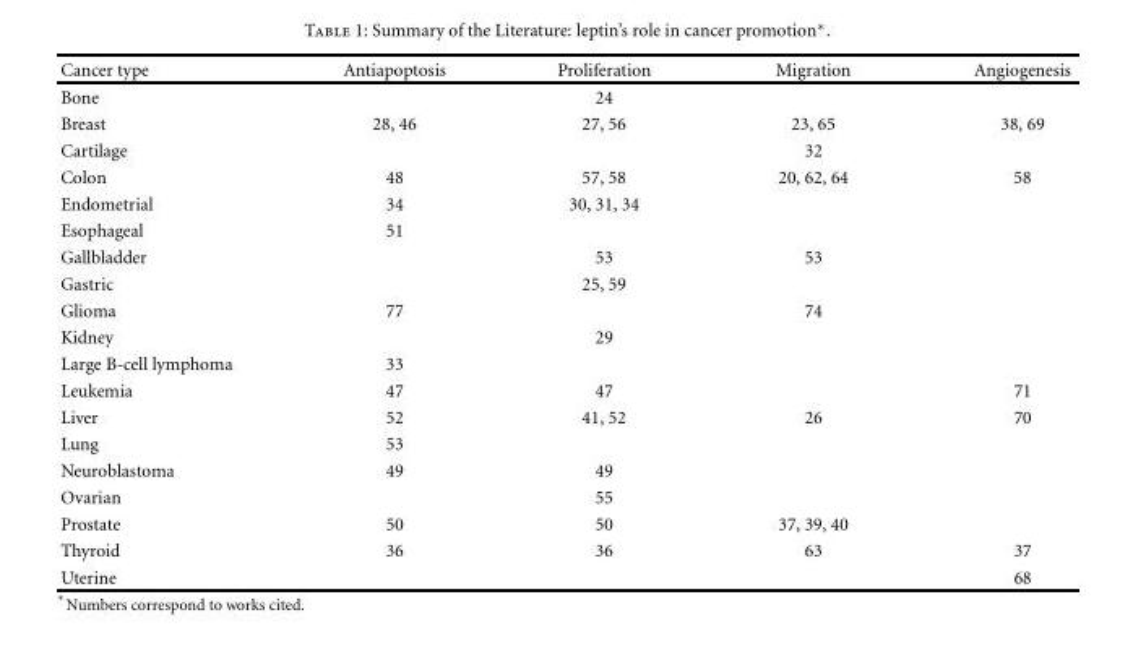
<table><thead><tr><td>Cancer type</td><td>Antiapoptosis</td><td>Proliferation</td><td>Migration</td><td>Angiogenesis</td></tr></thead><tbody><tr><td>Bone</td><td></td><td>24</td><td></td><td></td></tr><tr><td>Breast</td><td>28, 46</td><td>27, 56</td><td>23, 65</td><td>38, 69</td></tr><tr><td>Cartilage</td><td></td><td></td><td>32</td><td></td></tr><tr><td>Colon</td><td>48</td><td>57, 58</td><td>20, 62, 64</td><td>58</td></tr><tr><td>Endometrial</td><td>34</td><td>30, 31, 34</td><td></td><td></td></tr><tr><td>Esophageal</td><td>51</td><td></td><td></td><td></td></tr><tr><td>Gallbladder</td><td></td><td>53</td><td>53</td><td></td></tr><tr><td>Gastric</td><td></td><td>25, 59</td><td></td><td></td></tr><tr><td>Glioma</td><td>77</td><td></td><td>74</td><td></td></tr><tr><td>Kidney</td><td></td><td>29</td><td></td><td></td></tr><tr><td>Large B-cell lymphoma</td><td>33</td><td></td><td></td><td></td></tr><tr><td>Leukemia</td><td>47</td><td>47</td><td></td><td>71</td></tr><tr><td>Liver</td><td>52</td><td>41, 52</td><td>26</td><td>70</td></tr><tr><td>Lung</td><td>53</td><td></td><td></td><td></td></tr><tr><td>Neuroblastoma</td><td>49</td><td>49</td><td></td><td></td></tr><tr><td>Ovarian</td><td></td><td>55</td><td></td><td></td></tr><tr><td>Prostate</td><td>50</td><td>50</td><td>37, 39, 40</td><td></td></tr><tr><td>Thyroid</td><td>36</td><td>36</td><td>63</td><td>37</td></tr><tr><td>Uterine</td><td></td><td></td><td></td><td>68</td></tr></tbody></table>